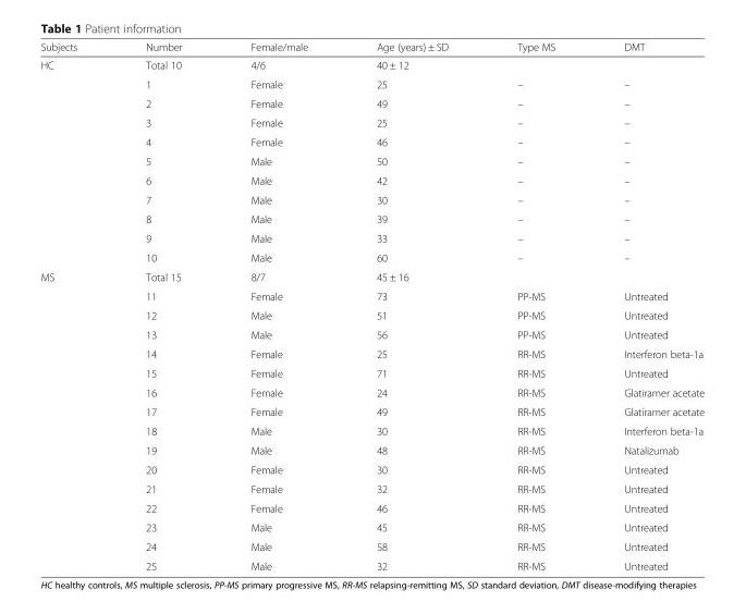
<table><thead><tr><td>Subjects</td><td>Number</td><td>Female/male</td><td>Age (years) ± SD</td><td>Type MS</td><td>DMT</td></tr></thead><tbody><tr><td rowspan="11">HC</td><td>Total 10</td><td>4/6</td><td>40 ± 12</td><td></td><td></td></tr><tr><td>1</td><td>Female</td><td>25</td><td>–</td><td>–</td></tr><tr><td>2</td><td>Female</td><td>49</td><td>–</td><td>–</td></tr><tr><td>3</td><td>Female</td><td>25</td><td>–</td><td>–</td></tr><tr><td>4</td><td>Female</td><td>46</td><td>–</td><td>–</td></tr><tr><td>5</td><td>Male</td><td>50</td><td>–</td><td>–</td></tr><tr><td>6</td><td>Male</td><td>42</td><td>–</td><td>–</td></tr><tr><td>7</td><td>Male</td><td>30</td><td>–</td><td>–</td></tr><tr><td>8</td><td>Male</td><td>39</td><td>–</td><td>–</td></tr><tr><td>9</td><td>Male</td><td>33</td><td>–</td><td>–</td></tr><tr><td>10</td><td>Male</td><td>60</td><td>–</td><td>–</td></tr><tr><td rowspan="16">MS</td><td>Total 15</td><td>8/7</td><td>45 ± 16</td><td></td><td></td></tr><tr><td>11</td><td>Female</td><td>73</td><td>PP-MS</td><td>Untreated</td></tr><tr><td>12</td><td>Male</td><td>51</td><td>PP-MS</td><td>Untreated</td></tr><tr><td>13</td><td>Male</td><td>56</td><td>PP-MS</td><td>Untreated</td></tr><tr><td>14</td><td>Female</td><td>25</td><td>RR-MS</td><td>Interferon beta-1a</td></tr><tr><td>15</td><td>Female</td><td>71</td><td>RR-MS</td><td>Untreated</td></tr><tr><td>16</td><td>Female</td><td>24</td><td>RR-MS</td><td>Glatiramer acetate</td></tr><tr><td>17</td><td>Female</td><td>49</td><td>RR-MS</td><td>Glatiramer acetate</td></tr><tr><td>18</td><td>Male</td><td>30</td><td>RR-MS</td><td>Interferon beta-1a</td></tr><tr><td>19</td><td>Male</td><td>48</td><td>RR-MS</td><td>Natalizumab</td></tr><tr><td>20</td><td>Female</td><td>30</td><td>RR-MS</td><td>Untreated</td></tr><tr><td>21</td><td>Female</td><td>32</td><td>RR-MS</td><td>Untreated</td></tr><tr><td>22</td><td>Female</td><td>46</td><td>RR-MS</td><td>Untreated</td></tr><tr><td>23</td><td>Male</td><td>45</td><td>RR-MS</td><td>Untreated</td></tr><tr><td>24</td><td>Male</td><td>58</td><td>RR-MS</td><td>Untreated</td></tr><tr><td>25</td><td>Male</td><td>32</td><td>RR-MS</td><td>Untreated</td></tr></tbody></table>